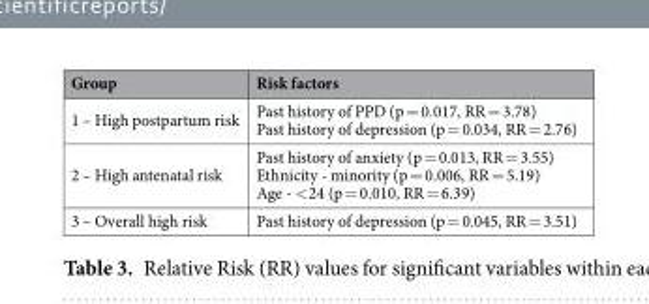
<table><thead><tr><td>Group</td><td>Risk factors</td></tr></thead><tbody><tr><td>1 – High postpartum risk</td><td>Past history of PPD (p = 0.017, RR = 3.78) Past history of depression (p = 0.034, RR = 2.76)</td></tr><tr><td>2 – High antenatal risk</td><td>Past history of anxiety (p = 0.013, RR = 3.55) Ethnicity - minority (p = 0.006, RR = 5.19) Age - &lt;24 (p = 0.010, RR = 6.39)</td></tr><tr><td>3 – Overall high risk</td><td>Past history of depression (p = 0.045, RR = 3.51)</td></tr></tbody></table>